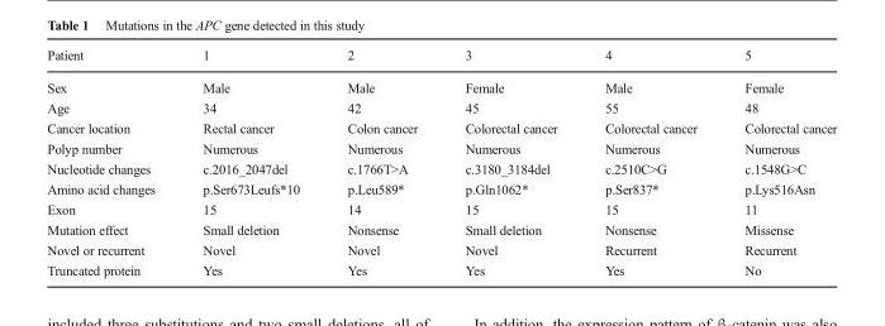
<table><thead><tr><td>Patient</td><td>1</td><td>2</td><td>3</td><td>4</td><td>5</td></tr></thead><tbody><tr><td>Sex</td><td>Male</td><td>Male</td><td>Female</td><td>Male</td><td>Female</td></tr><tr><td>Age</td><td>34</td><td>42</td><td>45</td><td>55</td><td>48</td></tr><tr><td>Cancer location</td><td>Rectal cancer</td><td>Colon cancer</td><td>Colorectal cancer</td><td>Colorectal cancer</td><td>Colorectal cancer</td></tr><tr><td>Polyp number</td><td>Numerous</td><td>Numerous</td><td>Numerous</td><td>Numerous</td><td>Numerous</td></tr><tr><td>Nucleotide changes</td><td>c.2016_2047del</td><td>c.1766T&gt;A</td><td>c.3180_3184del</td><td>c.2510C&gt;G</td><td>c.1548G&gt;C</td></tr><tr><td>Amino acid changes</td><td>p.Ser673Leufs*10</td><td>p.Leu589*</td><td>p.Gln1062*</td><td>p.Ser837*</td><td>p.Lys516Asn</td></tr><tr><td>Exon</td><td>15</td><td>14</td><td>15</td><td>15</td><td>11</td></tr><tr><td>Mutation effect</td><td>Small deletion</td><td>Nonsense</td><td>Small deletion</td><td>Nonsense</td><td>Missense</td></tr><tr><td>Novel or recurrent</td><td>Novel</td><td>Novel</td><td>Novel</td><td>Recurrent</td><td>Recurrent</td></tr><tr><td>Truncated protein</td><td>Yes</td><td>Yes</td><td>Yes</td><td>Yes</td><td>No</td></tr></tbody></table>